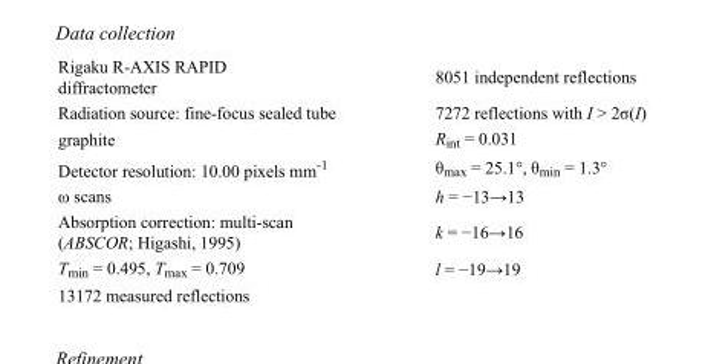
<table><tbody><tr><td>Rigaku R-AXIS RAPID diffractometer</td><td>8051 independent reflections</td></tr><tr><td>Radiation source: fine-focus sealed tube</td><td>7272 reflections with I &gt; 2σ(I)</td></tr><tr><td>graphite</td><td>R<sub>int</sub> = 0.031</td></tr><tr><td>Detector resolution: 10.00 pixels mm<sup>-1</sup></td><td>θ<sub>max</sub> = 25.1°, θ<sub>min</sub> = 1.3°</td></tr><tr><td>ω scans</td><td>h = −13→13</td></tr><tr><td>Absorption correction: multi-scan (ABSCOR; Higashi, 1995)</td><td>k = −16→16</td></tr><tr><td>T<sub>min</sub> = 0.495, T<sub>max</sub> = 0.709</td><td>l = −19→19</td></tr><tr><td>13172 measured reflections</td><td></td></tr></tbody></table>